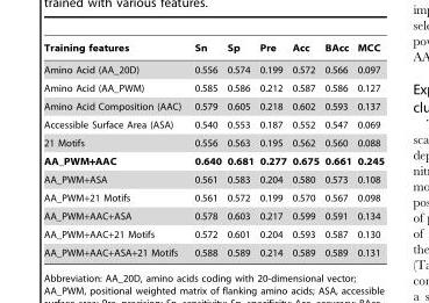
<table><thead><tr><td>Training features</td><td>Sn</td><td>Sp</td><td>Pre</td><td>Acc</td><td>BAcc</td><td>MCC</td></tr></thead><tbody><tr><td>Amino Acid (AA_20D)</td><td>0.556</td><td>0.574</td><td>0.199</td><td>0.572</td><td>0.566</td><td>0.097</td></tr><tr><td>Amino Acid (AA_PWM)</td><td>0.585</td><td>0.586</td><td>0.212</td><td>0.587</td><td>0.586</td><td>0.127</td></tr><tr><td>Amino Acid Composition (AAC)</td><td>0.579</td><td>0.605</td><td>0.218</td><td>0.602</td><td>0.593</td><td>0.137</td></tr><tr><td>Accessible Surface Area (ASA)</td><td>0.540</td><td>0.553</td><td>0.187</td><td>0.552</td><td>0.547</td><td>0.069</td></tr><tr><td>21 Motifs</td><td>0.556</td><td>0.563</td><td>0.195</td><td>0.562</td><td>0.560</td><td>0.088</td></tr><tr><td>AA_PWM+AAC</td><td>0.640</td><td>0.681</td><td>0.277</td><td>0.675</td><td>0.661</td><td>0.245</td></tr><tr><td>AA_PWM+ASA</td><td>0.561</td><td>0.583</td><td>0.204</td><td>0.580</td><td>0.573</td><td>0.108</td></tr><tr><td>AA_PWM+21 Motifs</td><td>0.561</td><td>0.572</td><td>0.199</td><td>0.570</td><td>0.567</td><td>0.098</td></tr><tr><td>AA_PWM+AAC+ASA</td><td>0.578</td><td>0.603</td><td>0.217</td><td>0.599</td><td>0.591</td><td>0.134</td></tr><tr><td>AA_PWM+AAC+21 Motifs</td><td>0.572</td><td>0.601</td><td>0.204</td><td>0.593</td><td>0.587</td><td>0.130</td></tr><tr><td>AA_PWM+AAC+ASA+21 Motifs</td><td>0.588</td><td>0.589</td><td>0.214</td><td>0.589</td><td>0.589</td><td>0.131</td></tr></tbody></table>